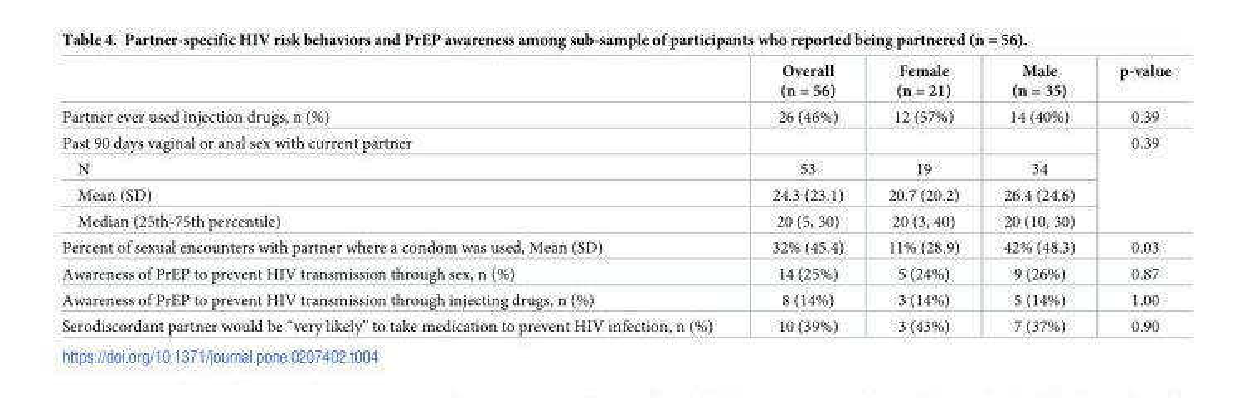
<table><thead><tr><td></td><td>Overall (n = 56)</td><td>Female (n = 21)</td><td>Male (n = 35)</td><td>p-value</td></tr></thead><tbody><tr><td>Partner ever used injection drugs, n (%)</td><td>26 (46%)</td><td>12 (57%)</td><td>14 (40%)</td><td>0.39</td></tr><tr><td colspan="4">Past 90 days vaginal or anal sex with current partner</td><td rowspan="4">0.39</td></tr><tr><td>N</td><td>53</td><td>19</td><td>34</td></tr><tr><td>Mean (SD)</td><td>24.3 (23.1)</td><td>20.7 (20.2)</td><td>26.4 (24.6)</td></tr><tr><td>Median (25th-75th percentile)</td><td>20 (5, 30)</td><td>20 (3, 40)</td><td>20 (10, 30)</td></tr><tr><td>Percent of sexual encounters with partner where a condom was used, Mean (SD)</td><td>32% (45.4)</td><td>11% (28.9)</td><td>42% (48.3)</td><td>0.03</td></tr><tr><td>Awareness of PrEP to prevent HIV transmission through sex, n (%)</td><td>14 (25%)</td><td>5 (24%)</td><td>9 (26%)</td><td>0.87</td></tr><tr><td>Awareness of PrEP to prevent HIV transmission through injecting drugs, n (%)</td><td>8 (14%)</td><td>3 (14%)</td><td>5 (14%)</td><td>1.00</td></tr><tr><td>Serodiscordant partner would be “very likely” to take medication to prevent HIV infection, n (%)</td><td>10 (39%)</td><td>3 (43%)</td><td>7 (37%)</td><td>0.90</td></tr></tbody></table>